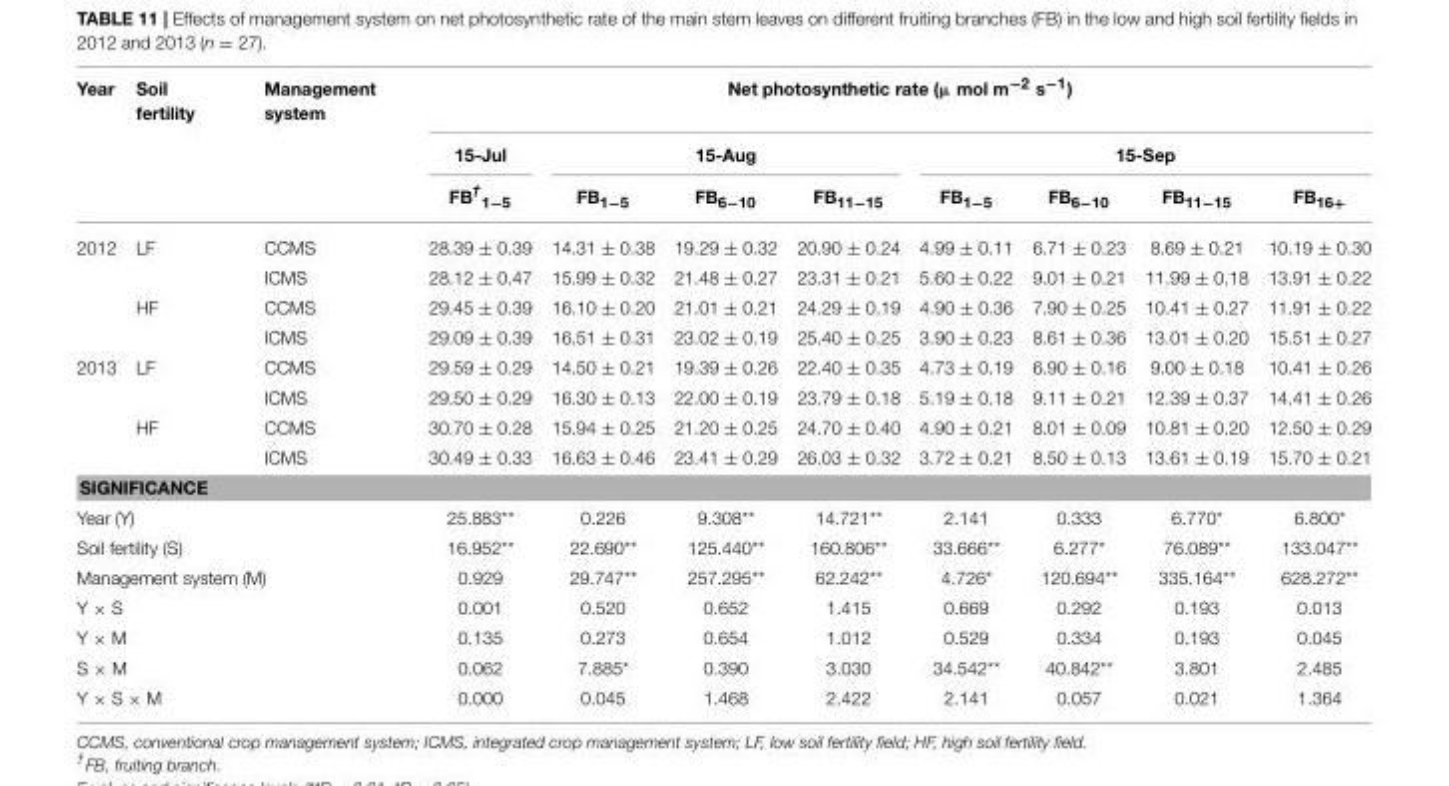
<table><thead><tr><td rowspan="3">Year</td><td rowspan="3">Soil fertility</td><td rowspan="3">Management system</td><td colspan="8">Net photosynthetic rate (µ mol m<sup>−2</sup> s<sup>−1</sup>)</td></tr><tr><td rowspan="2">15-Jul FB<sup>†</sup> <sub>1−5</sub></td><td colspan="3">15-Aug</td><td colspan="4">15-Sep</td></tr><tr><td>FB<sub>1−5</sub></td><td>FB<sub>6−10</sub></td><td>FB<sub>11−15</sub></td><td>FB<sub>1−5</sub></td><td>FB<sub>6−10</sub></td><td>FB<sub>11−15</sub></td><td>FB<sub>16+</sub></td></tr></thead><tbody><tr><td rowspan="4">2012</td><td>LF</td><td>CCMS</td><td>28.39 ± 0.39</td><td>14.31 ± 0.38</td><td>19.29 ± 0.32</td><td>20.90 ± 0.24</td><td>4.99 ± 0.11</td><td>6.71 ± 0.23</td><td>8.69 ± 0.21</td><td>10.19 ± 0.30</td></tr><tr><td></td><td>ICMS</td><td>28.12 ± 0.47</td><td>15.99 ± 0.32</td><td>21.48 ± 0.27</td><td>23.31 ± 0.21</td><td>5.60 ± 0.22</td><td>9.01 ± 0.21</td><td>11.99 ± 0.18</td><td>13.91 ± 0.22</td></tr><tr><td>HF</td><td>CCMS</td><td>29.45 ± 0.39</td><td>16.10 ± 0.20</td><td>21.01 ± 0.21</td><td>24.29 ± 0.19</td><td>4.90 ± 0.36</td><td>7.90 ± 0.25</td><td>10.41 ± 0.27</td><td>11.91 ± 0.22</td></tr><tr><td></td><td>ICMS</td><td>29.09 ± 0.39</td><td>16.51 ± 0.31</td><td>23.02 ± 0.19</td><td>25.40 ± 0.25</td><td>3.90 ± 0.23</td><td>8.61 ± 0.36</td><td>13.01 ± 0.20</td><td>15.51 ± 0.27</td></tr><tr><td rowspan="4">2013</td><td>LF</td><td>CCMS</td><td>29.59 ± 0.29</td><td>14.50 ± 0.21</td><td>19.39 ± 0.26</td><td>22.40 ± 0.35</td><td>4.73 ± 0.19</td><td>6.90 ± 0.16</td><td>9.00 ± 0.18</td><td>10.41 ± 0.26</td></tr><tr><td></td><td>ICMS</td><td>29.50 ± 0.29</td><td>16.30 ± 0.13</td><td>22.00 ± 0.19</td><td>23.79 ± 0.18</td><td>5.19 ± 0.18</td><td>9.11 ± 0.21</td><td>12.39 ± 0.37</td><td>14.41 ± 0.26</td></tr><tr><td>HF</td><td>CCMS</td><td>30.70 ± 0.28</td><td>15.94 ± 0.25</td><td>21.20 ± 0.25</td><td>24.70 ± 0.40</td><td>4.90 ± 0.21</td><td>8.01 ± 0.09</td><td>10.81 ± 0.20</td><td>12.50 ± 0.29</td></tr><tr><td></td><td>ICMS</td><td>30.49 ± 0.33</td><td>16.63 ± 0.46</td><td>23.41 ± 0.29</td><td>26.03 ± 0.32</td><td>3.72 ± 0.21</td><td>8.50 ± 0.13</td><td>13.61 ± 0.19</td><td>15.70 ± 0.21</td></tr><tr><td colspan="11">SIGNIFICANCE</td></tr><tr><td colspan="3">Year (Y)</td><td>25.883**</td><td>0.226</td><td>9.308**</td><td>14.721**</td><td>2.141</td><td>0.333</td><td>6.770*</td><td>6.800*</td></tr><tr><td colspan="3">Soil fertility (S)</td><td>16.952**</td><td>22.690**</td><td>125.440**</td><td>160.806**</td><td>33.666**</td><td>6.277*</td><td>76.089**</td><td>133.047**</td></tr><tr><td colspan="3">Management system (M)</td><td>0.929</td><td>29.747**</td><td>257.295**</td><td>62.242**</td><td>4.726*</td><td>120.694**</td><td>335.164**</td><td>628.272**</td></tr><tr><td colspan="3">Y × S</td><td>0.001</td><td>0.520</td><td>0.652</td><td>1.415</td><td>0.669</td><td>0.292</td><td>0.193</td><td>0.013</td></tr><tr><td colspan="3">Y × M</td><td>0.135</td><td>0.273</td><td>0.654</td><td>1.012</td><td>0.529</td><td>0.334</td><td>0.193</td><td>0.045</td></tr><tr><td colspan="3">S × M</td><td>0.062</td><td>7.885*</td><td>0.390</td><td>3.030</td><td>34.542**</td><td>40.842**</td><td>3.801</td><td>2.485</td></tr><tr><td colspan="3">Y × S × M</td><td>0.000</td><td>0.045</td><td>1.468</td><td>2.422</td><td>2.141</td><td>0.057</td><td>0.021</td><td>1.364</td></tr></tbody></table>